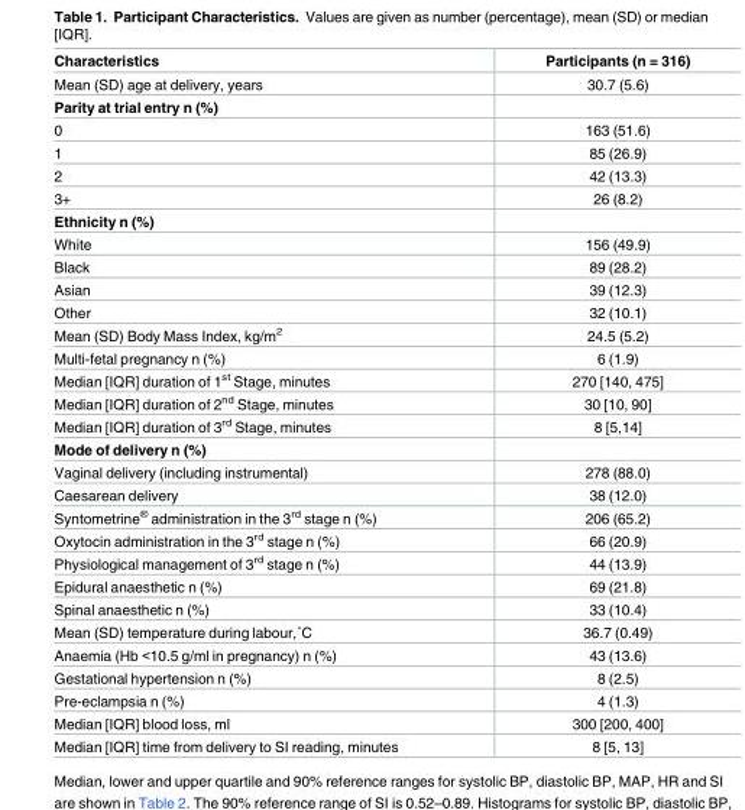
<table><thead><tr><td>Characteristics</td><td>Participants (n = 316)</td></tr></thead><tbody><tr><td>Mean (SD) age at delivery, years</td><td>30.7 (5.6)</td></tr><tr><td colspan="2">Parity at trial entry n (%)</td></tr><tr><td>0</td><td>163 (51.6)</td></tr><tr><td>1</td><td>85 (26.9)</td></tr><tr><td>2</td><td>42 (13.3)</td></tr><tr><td>3+</td><td>26 (8.2)</td></tr><tr><td colspan="2">Ethnicity n (%)</td></tr><tr><td>White</td><td>156 (49.9)</td></tr><tr><td>Black</td><td>89 (28.2)</td></tr><tr><td>Asian</td><td>39 (12.3)</td></tr><tr><td>Other</td><td>32 (10.1)</td></tr><tr><td>Mean (SD) Body Mass Index, kg/m<sup>2</sup></td><td>24.5 (5.2)</td></tr><tr><td>Multi-fetal pregnancy n (%)</td><td>6 (1.9)</td></tr><tr><td>Median [IQR] duration of 1<sup>st</sup> Stage, minutes</td><td>270 [140, 475]</td></tr><tr><td>Median [IQR] duration of 2<sup>nd</sup> Stage, minutes</td><td>30 [10, 90]</td></tr><tr><td>Median [IQR] duration of 3<sup>rd</sup> Stage, minutes</td><td>8 [5,14]</td></tr><tr><td colspan="2">Mode of delivery n (%)</td></tr><tr><td>Vaginal delivery (including instrumental)</td><td>278 (88.0)</td></tr><tr><td>Caesarean delivery</td><td>38 (12.0)</td></tr><tr><td>Syntometrine<sup>®</sup> administration in the 3<sup>rd</sup> stage n (%)</td><td>206 (65.2)</td></tr><tr><td>Oxytocin administration in the 3<sup>rd</sup> stage n (%)</td><td>66 (20.9)</td></tr><tr><td>Physiological management of 3<sup>rd</sup> stage n (%)</td><td>44 (13.9)</td></tr><tr><td>Epidural anaesthetic n (%)</td><td>69 (21.8)</td></tr><tr><td>Spinal anaesthetic n (%)</td><td>33 (10.4)</td></tr><tr><td>Mean (SD) temperature during labour,˚C</td><td>36.7 (0.49)</td></tr><tr><td>Anaemia (Hb &lt;10.5 g/ml in pregnancy) n (%)</td><td>43 (13.6)</td></tr><tr><td>Gestational hypertension n (%)</td><td>8 (2.5)</td></tr><tr><td>Pre-eclampsia n (%)</td><td>4 (1.3)</td></tr><tr><td>Median [IQR] blood loss, ml</td><td>300 [200, 400]</td></tr><tr><td>Median [IQR] time from delivery to SI reading, minutes</td><td>8 [5, 13]</td></tr></tbody></table>